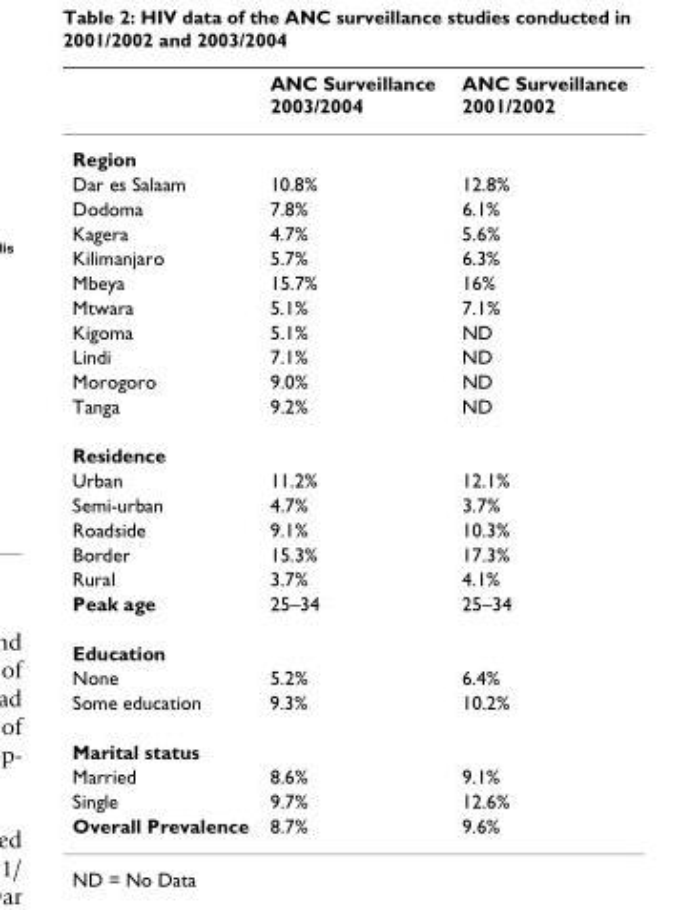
<table><thead><tr><td></td><td>ANC Surveillance 2003/2004</td><td>ANC Surveillance 2001/2002</td></tr></thead><tbody><tr><td colspan="3">Region</td></tr><tr><td>Dar es Salaam</td><td>10.8%</td><td>12.8%</td></tr><tr><td>Dodoma</td><td>7.8%</td><td>6.1%</td></tr><tr><td>Kagera</td><td>4.7%</td><td>5.6%</td></tr><tr><td>Kilimanjaro</td><td>5.7%</td><td>6.3%</td></tr><tr><td>Mbeya</td><td>15.7%</td><td>16%</td></tr><tr><td>Mtwara</td><td>5.1%</td><td>7.1%</td></tr><tr><td>Kigoma</td><td>5.1%</td><td>ND</td></tr><tr><td>Lindi</td><td>7.1%</td><td>ND</td></tr><tr><td>Morogoro</td><td>9.0%</td><td>ND</td></tr><tr><td>Tanga</td><td>9.2%</td><td>ND</td></tr><tr><td colspan="3">Residence</td></tr><tr><td>Urban</td><td>11.2%</td><td>12.1%</td></tr><tr><td>Semi-urban</td><td>4.7%</td><td>3.7%</td></tr><tr><td>Roadside</td><td>9.1%</td><td>10.3%</td></tr><tr><td>Border</td><td>15.3%</td><td>17.3%</td></tr><tr><td>Rural</td><td>3.7%</td><td>4.1%</td></tr><tr><td>Peak age</td><td>25–34</td><td>25–34</td></tr><tr><td colspan="3">Education</td></tr><tr><td>None</td><td>5.2%</td><td>6.4%</td></tr><tr><td>Some education</td><td>9.3%</td><td>10.2%</td></tr><tr><td colspan="3">Marital status</td></tr><tr><td>Married</td><td>8.6%</td><td>9.1%</td></tr><tr><td>Single</td><td>9.7%</td><td>12.6%</td></tr><tr><td>Overall Prevalence</td><td>8.7%</td><td>9.6%</td></tr></tbody></table>